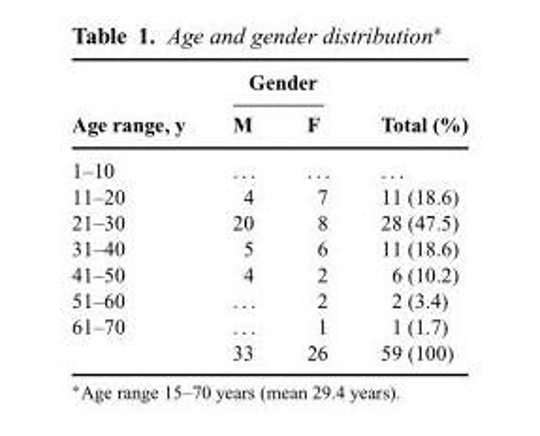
<table><thead><tr><td rowspan="2">Age range, y</td><td colspan="2">Gender</td><td rowspan="2">Total (%)</td></tr><tr><td>M</td><td>F</td></tr></thead><tbody><tr><td>1–10</td><td>. . .</td><td>. . .</td><td>. . .</td></tr><tr><td>11–20</td><td>4</td><td>7</td><td>11 (18.6)</td></tr><tr><td>21–30</td><td>20</td><td>8</td><td>28 (47.5)</td></tr><tr><td>31–40</td><td>5</td><td>6</td><td>11 (18.6)</td></tr><tr><td>41–50</td><td>4</td><td>2</td><td>6 (10.2)</td></tr><tr><td>51–60</td><td>. . .</td><td>2</td><td>2 (3.4)</td></tr><tr><td rowspan="2">61–70</td><td>. . .</td><td>1</td><td>1 (1.7)</td></tr><tr><td>33</td><td>26</td><td>59 (100)</td></tr></tbody></table>